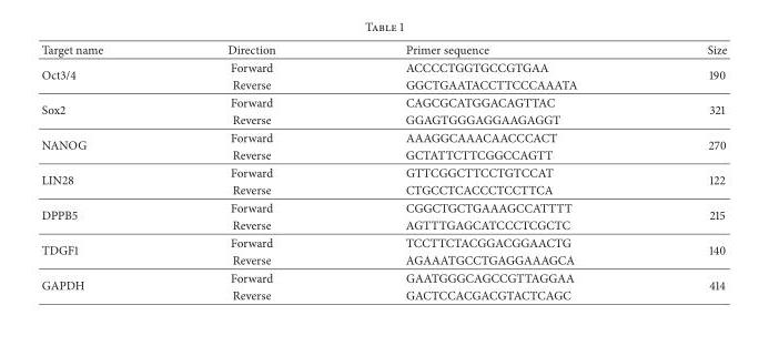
<table><thead><tr><td>Target name</td><td>Direction</td><td>Primer sequence</td><td>Size</td></tr></thead><tbody><tr><td rowspan="2">Oct3/4</td><td>Forward</td><td>ACCCCTGGTGCCGTGAA</td><td rowspan="2">190</td></tr><tr><td>Reverse</td><td>GGCTGAATACCTTCCCAAATA</td></tr><tr><td rowspan="2">Sox2</td><td>Forward</td><td>CAGCGCATGGACAGTTAC</td><td rowspan="2">321</td></tr><tr><td>Reverse</td><td>GGAGTGGGAGGAAGAGGT</td></tr><tr><td rowspan="2">NANOG</td><td>Forward</td><td>AAAGGCAAACAACCCACT</td><td rowspan="2">270</td></tr><tr><td>Reverse</td><td>GCTATTCTTCGGCCAGTT</td></tr><tr><td rowspan="2">LIN28</td><td>Forward</td><td>GTTCGGCTTCCTGTCCAT</td><td rowspan="2">122</td></tr><tr><td>Reverse</td><td>CTGCCTCACCCTCCTTCA</td></tr><tr><td rowspan="2">DPPB5</td><td>Forward</td><td>CGGCTGCTGAAAGCCATTTT</td><td rowspan="2">215</td></tr><tr><td>Reverse</td><td>AGTTTGAGCATCCCTCGCTC</td></tr><tr><td rowspan="2">TDGF1</td><td>Forward</td><td>TCCTTCTACGGACGGAACTG</td><td rowspan="2">140</td></tr><tr><td>Reverse</td><td>AGAAATGCCTGAGGAAAGCA</td></tr><tr><td rowspan="2">GAPDH</td><td>Forward</td><td>GAATGGGCAGCCGTTAGGAA</td><td rowspan="2">414</td></tr><tr><td>Reverse</td><td>GACTCCACGACGTACTCAGC</td></tr></tbody></table>